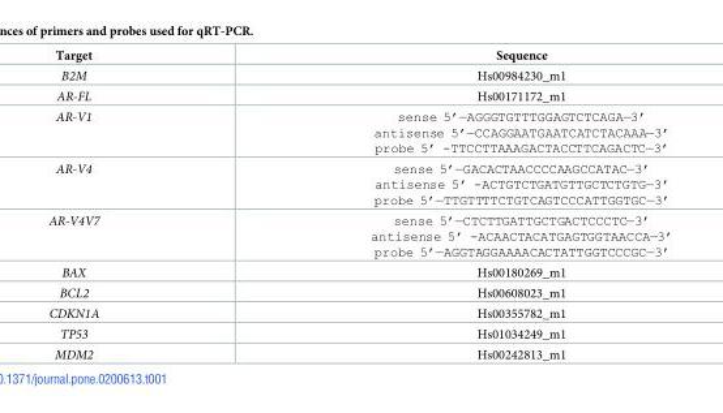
<table><thead><tr><td>Target</td><td>Sequence</td></tr></thead><tbody><tr><td>B2M</td><td>Hs00984230_m1</td></tr><tr><td>AR-FL</td><td>Hs00171172_m1</td></tr><tr><td>AR-V1</td><td>sense 5’—AGGGTGTTTGGAGTCTCAGA—3’ antisense 5’—CCAGGAATGAATCATCTACAAA—3’ probe 5’ -TTCCTTAAAGACTACCTTCAGACTC—3’</td></tr><tr><td>AR-V4</td><td>sense 5’—GACACTAACCCCAAGCCATAC—3’ antisense 5’ -ACTGTCTGATGTTGCTCTGTG—3’ probe 5’—TTGTTTTCTGTCAGTCCCATTGGTGC—3’</td></tr><tr><td>AR-V4V7</td><td>sense 5’—CTCTTGATTGCTGACTCCCTC—3’ antisense 5’ -ACAACTACATGAGTGGTAACCA—3’ probe 5’—AGGTAGGAAAACACTATTGGTCCCGC—3’</td></tr><tr><td>BAX</td><td>Hs00180269_m1</td></tr><tr><td>BCL2</td><td>Hs00608023_m1</td></tr><tr><td>CDKN1A</td><td>Hs00355782_m1</td></tr><tr><td>TP53</td><td>Hs01034249_m1</td></tr><tr><td>MDM2</td><td>Hs00242813_m1</td></tr></tbody></table>